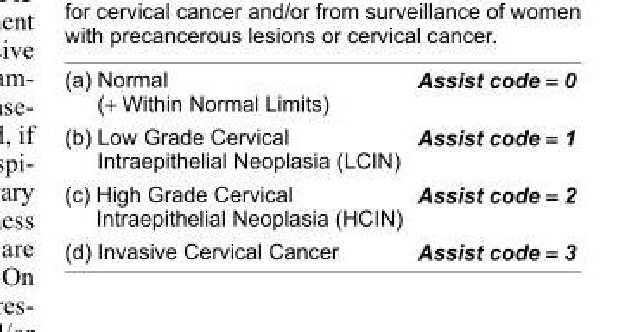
<table><tbody><tr><td>(a) Normal (+ Within Normal Limits)</td><td>Assist code = 0</td></tr><tr><td>(b) Low Grade Cervical Intraepithelial Neoplasia (LCIN)</td><td>Assist code = 1</td></tr><tr><td>(c) High Grade Cervical Intraepithelial Neoplasia (HCIN)</td><td>Assist code = 2</td></tr><tr><td>(d) Invasive Cervical Cancer</td><td>Assist code = 3</td></tr></tbody></table>